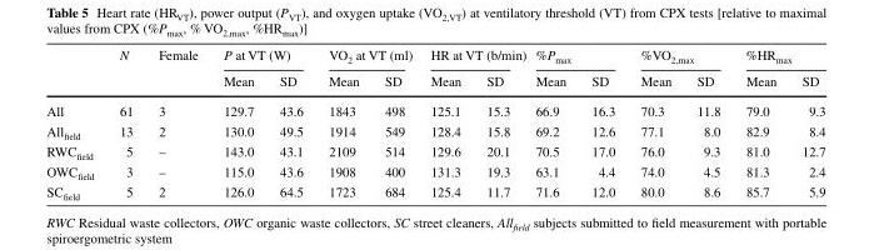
<table><thead><tr><td rowspan="2"></td><td rowspan="2">N</td><td rowspan="2">Female</td><td colspan="2">P at VT (W)</td><td colspan="2">VO<sub>2</sub> at VT (ml)</td><td colspan="2">HR at VT (b/min)</td><td colspan="2">%P<sub>max</sub></td><td colspan="2">%VO<sub>2,max</sub></td><td colspan="2">%HR<sub>max</sub></td></tr><tr><td>Mean</td><td>SD</td><td>Mean</td><td>SD</td><td>Mean</td><td>SD</td><td>Mean</td><td>SD</td><td>Mean</td><td>SD</td><td>Mean</td><td>SD</td></tr></thead><tbody><tr><td>All</td><td>61</td><td>3</td><td>129.7</td><td>43.6</td><td>1843</td><td>498</td><td>125.1</td><td>15.3</td><td>66.9</td><td>16.3</td><td>70.3</td><td>11.8</td><td>79.0</td><td>9.3</td></tr><tr><td>All<sub>field</sub></td><td>13</td><td>2</td><td>130.0</td><td>49.5</td><td>1914</td><td>549</td><td>128.4</td><td>15.8</td><td>69.2</td><td>12.6</td><td>77.1</td><td>8.0</td><td>82.9</td><td>8.4</td></tr><tr><td>RWC<sub>field</sub></td><td>5</td><td>–</td><td>143.0</td><td>43.1</td><td>2109</td><td>514</td><td>129.6</td><td>20.1</td><td>70.5</td><td>17.0</td><td>76.0</td><td>9.3</td><td>81.0</td><td>12.7</td></tr><tr><td>OWC<sub>field</sub></td><td>3</td><td>–</td><td>115.0</td><td>43.6</td><td>1908</td><td>400</td><td>131.3</td><td>19.3</td><td>63.1</td><td>4.4</td><td>74.0</td><td>4.5</td><td>81.3</td><td>2.4</td></tr><tr><td>SC<sub>field</sub></td><td>5</td><td>2</td><td>126.0</td><td>64.5</td><td>1723</td><td>684</td><td>125.4</td><td>11.7</td><td>71.6</td><td>12.0</td><td>80.0</td><td>8.6</td><td>85.7</td><td>5.9</td></tr></tbody></table>